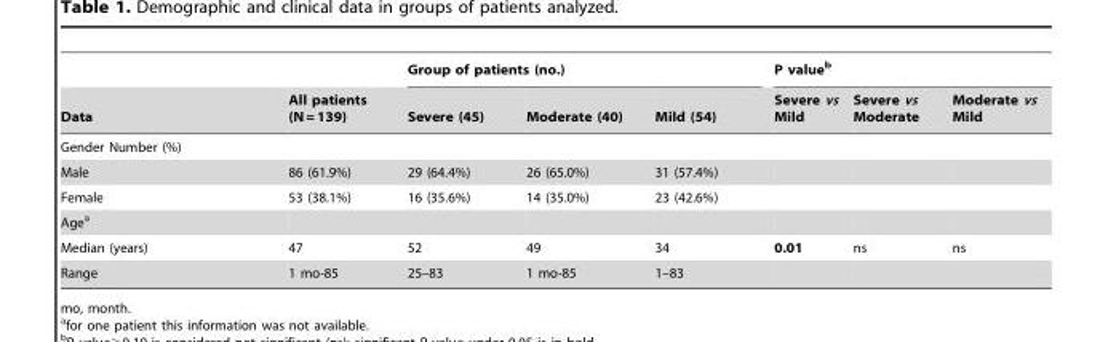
<table><thead><tr><td rowspan="2">Data</td><td rowspan="2">All patients (N = 139)</td><td colspan="3">Group of patients (no.)</td><td colspan="3">P value<sup>b</sup></td></tr><tr><td>Severe (45)</td><td>Moderate (40)</td><td>Mild (54)</td><td>Severe vs Mild</td><td>Severe vs Moderate</td><td>Moderate vs Mild</td></tr></thead><tbody><tr><td colspan="8">Gender Number (%)</td></tr><tr><td>Male</td><td>86 (61.9%)</td><td>29 (64.4%)</td><td>26 (65.0%)</td><td>31 (57.4%)</td><td></td><td></td><td></td></tr><tr><td>Female</td><td>53 (38.1%)</td><td>16 (35.6%)</td><td>14 (35.0%)</td><td>23 (42.6%)</td><td></td><td></td><td></td></tr><tr><td colspan="8">Age<sup>a</sup></td></tr><tr><td>Median (years)</td><td>47</td><td>52</td><td>49</td><td>34</td><td>0.01</td><td>ns</td><td>ns</td></tr><tr><td>Range</td><td>1 mo-85</td><td>25–83</td><td>1 mo-85</td><td>1–83</td><td></td><td></td><td></td></tr></tbody></table>